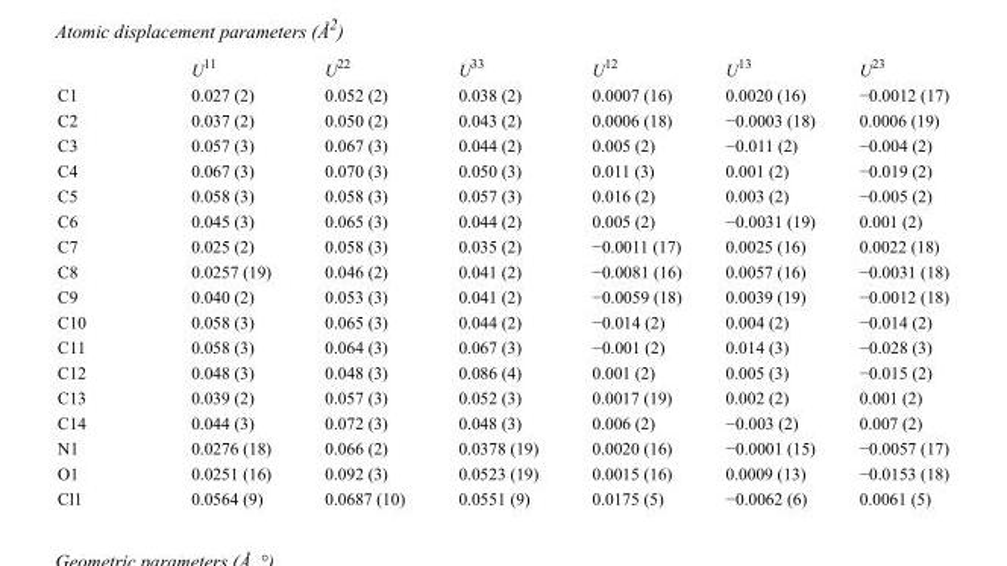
<table><thead><tr><td></td><td>U<sup>11</sup></td><td>U<sup>22</sup></td><td>U<sup>33</sup></td><td>U<sup>12</sup></td><td>U<sup>13</sup></td><td>U<sup>23</sup></td></tr></thead><tbody><tr><td>C1</td><td>0.027 (2)</td><td>0.052 (2)</td><td>0.038 (2)</td><td>0.0007 (16)</td><td>0.0020 (16)</td><td>−0.0012 (17)</td></tr><tr><td>C2</td><td>0.037 (2)</td><td>0.050 (2)</td><td>0.043 (2)</td><td>0.0006 (18)</td><td>−0.0003 (18)</td><td>0.0006 (19)</td></tr><tr><td>C3</td><td>0.057 (3)</td><td>0.067 (3)</td><td>0.044 (2)</td><td>0.005 (2)</td><td>−0.011 (2)</td><td>−0.004 (2)</td></tr><tr><td>C4</td><td>0.067 (3)</td><td>0.070 (3)</td><td>0.050 (3)</td><td>0.011 (3)</td><td>0.001 (2)</td><td>−0.019 (2)</td></tr><tr><td>C5</td><td>0.058 (3)</td><td>0.058 (3)</td><td>0.057 (3)</td><td>0.016 (2)</td><td>0.003 (2)</td><td>−0.005 (2)</td></tr><tr><td>C6</td><td>0.045 (3)</td><td>0.065 (3)</td><td>0.044 (2)</td><td>0.005 (2)</td><td>−0.0031 (19)</td><td>0.001 (2)</td></tr><tr><td>C7</td><td>0.025 (2)</td><td>0.058 (3)</td><td>0.035 (2)</td><td>−0.0011 (17)</td><td>0.0025 (16)</td><td>0.0022 (18)</td></tr><tr><td>C8</td><td>0.0257 (19)</td><td>0.046 (2)</td><td>0.041 (2)</td><td>−0.0081 (16)</td><td>0.0057 (16)</td><td>−0.0031 (18)</td></tr><tr><td>C9</td><td>0.040 (2)</td><td>0.053 (3)</td><td>0.041 (2)</td><td>−0.0059 (18)</td><td>0.0039 (19)</td><td>−0.0012 (18)</td></tr><tr><td>C10</td><td>0.058 (3)</td><td>0.065 (3)</td><td>0.044 (2)</td><td>−0.014 (2)</td><td>0.004 (2)</td><td>−0.014 (2)</td></tr><tr><td>C11</td><td>0.058 (3)</td><td>0.064 (3)</td><td>0.067 (3)</td><td>−0.001 (2)</td><td>0.014 (3)</td><td>−0.028 (3)</td></tr><tr><td>C12</td><td>0.048 (3)</td><td>0.048 (3)</td><td>0.086 (4)</td><td>0.001 (2)</td><td>0.005 (3)</td><td>−0.015 (2)</td></tr><tr><td>C13</td><td>0.039 (2)</td><td>0.057 (3)</td><td>0.052 (3)</td><td>0.0017 (19)</td><td>0.002 (2)</td><td>0.001 (2)</td></tr><tr><td>C14</td><td>0.044 (3)</td><td>0.072 (3)</td><td>0.048 (3)</td><td>0.006 (2)</td><td>−0.003 (2)</td><td>0.007 (2)</td></tr><tr><td>N1</td><td>0.0276 (18)</td><td>0.066 (2)</td><td>0.0378 (19)</td><td>0.0020 (16)</td><td>−0.0001 (15)</td><td>−0.0057 (17)</td></tr><tr><td>O1</td><td>0.0251 (16)</td><td>0.092 (3)</td><td>0.0523 (19)</td><td>0.0015 (16)</td><td>0.0009 (13)</td><td>−0.0153 (18)</td></tr><tr><td>Cl1</td><td>0.0564 (9)</td><td>0.0687 (10)</td><td>0.0551 (9)</td><td>0.0175 (5)</td><td>−0.0062 (6)</td><td>0.0061 (5)</td></tr></tbody></table>